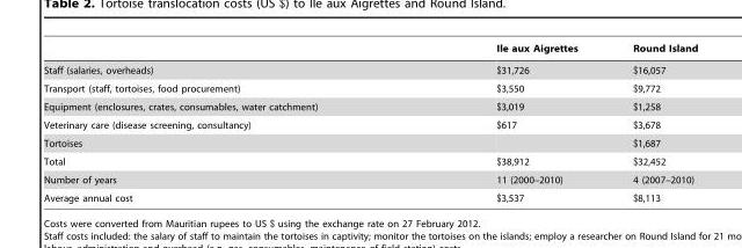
<table><thead><tr><td></td><td>Ile aux Aigrettes</td><td>Round Island</td></tr></thead><tbody><tr><td>Staff (salaries, overheads)</td><td>$31,726</td><td>$16,057</td></tr><tr><td>Transport (staff, tortoises, food procurement)</td><td>$3,550</td><td>$9,772</td></tr><tr><td>Equipment (enclosures, crates, consumables, water catchment)</td><td>$3,019</td><td>$1,258</td></tr><tr><td>Veterinary care (disease screening, consultancy)</td><td>$617</td><td>$3,678</td></tr><tr><td>Tortoises</td><td></td><td>$1,687</td></tr><tr><td>Total</td><td>$38,912</td><td>$32,452</td></tr><tr><td>Number of years</td><td>11 (2000–2010)</td><td>4 (2007–2010)</td></tr><tr><td>Average annual cost</td><td>$3,537</td><td>$8,113</td></tr></tbody></table>